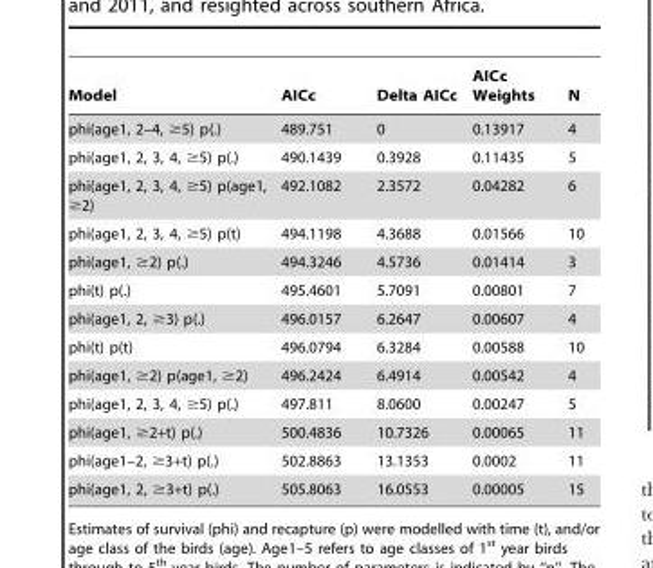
<table><thead><tr><td>Model</td><td>AICc</td><td>Delta AICc</td><td>AICc Weights</td><td>N</td></tr></thead><tbody><tr><td>phi(age1, 2–4, ≥5) p(.)</td><td>489.751</td><td>0</td><td>0.13917</td><td>4</td></tr><tr><td>phi(age1, 2, 3, 4, ≥5) p(.)</td><td>490.1439</td><td>0.3928</td><td>0.11435</td><td>5</td></tr><tr><td>phi(age1, 2, 3, 4, ≥5) p(age1, ≥2)</td><td>492.1082</td><td>2.3572</td><td>0.04282</td><td>6</td></tr><tr><td>phi(age1, 2, 3, 4, ≥5) p(t)</td><td>494.1198</td><td>4.3688</td><td>0.01566</td><td>10</td></tr><tr><td>phi(age1, ≥2) p(.)</td><td>494.3246</td><td>4.5736</td><td>0.01414</td><td>3</td></tr><tr><td>phi(t) p(.)</td><td>495.4601</td><td>5.7091</td><td>0.00801</td><td>7</td></tr><tr><td>phi(age1, 2, ≥3) p(.)</td><td>496.0157</td><td>6.2647</td><td>0.00607</td><td>4</td></tr><tr><td>phi(t) p(t)</td><td>496.0794</td><td>6.3284</td><td>0.00588</td><td>10</td></tr><tr><td>phi(age1, ≥2) p(age1, ≥2)</td><td>496.2424</td><td>6.4914</td><td>0.00542</td><td>4</td></tr><tr><td>phi(age1, 2, 3, 4, ≥5) p(.)</td><td>497.811</td><td>8.0600</td><td>0.00247</td><td>5</td></tr><tr><td>phi(age1, ≥2+t) p(.)</td><td>500.4836</td><td>10.7326</td><td>0.00065</td><td>11</td></tr><tr><td>phi(age1–2, ≥3+t) p(.)</td><td>502.8863</td><td>13.1353</td><td>0.0002</td><td>11</td></tr><tr><td>phi(age1, 2, ≥3+t) p(.)</td><td>505.8063</td><td>16.0553</td><td>0.00005</td><td>15</td></tr></tbody></table>